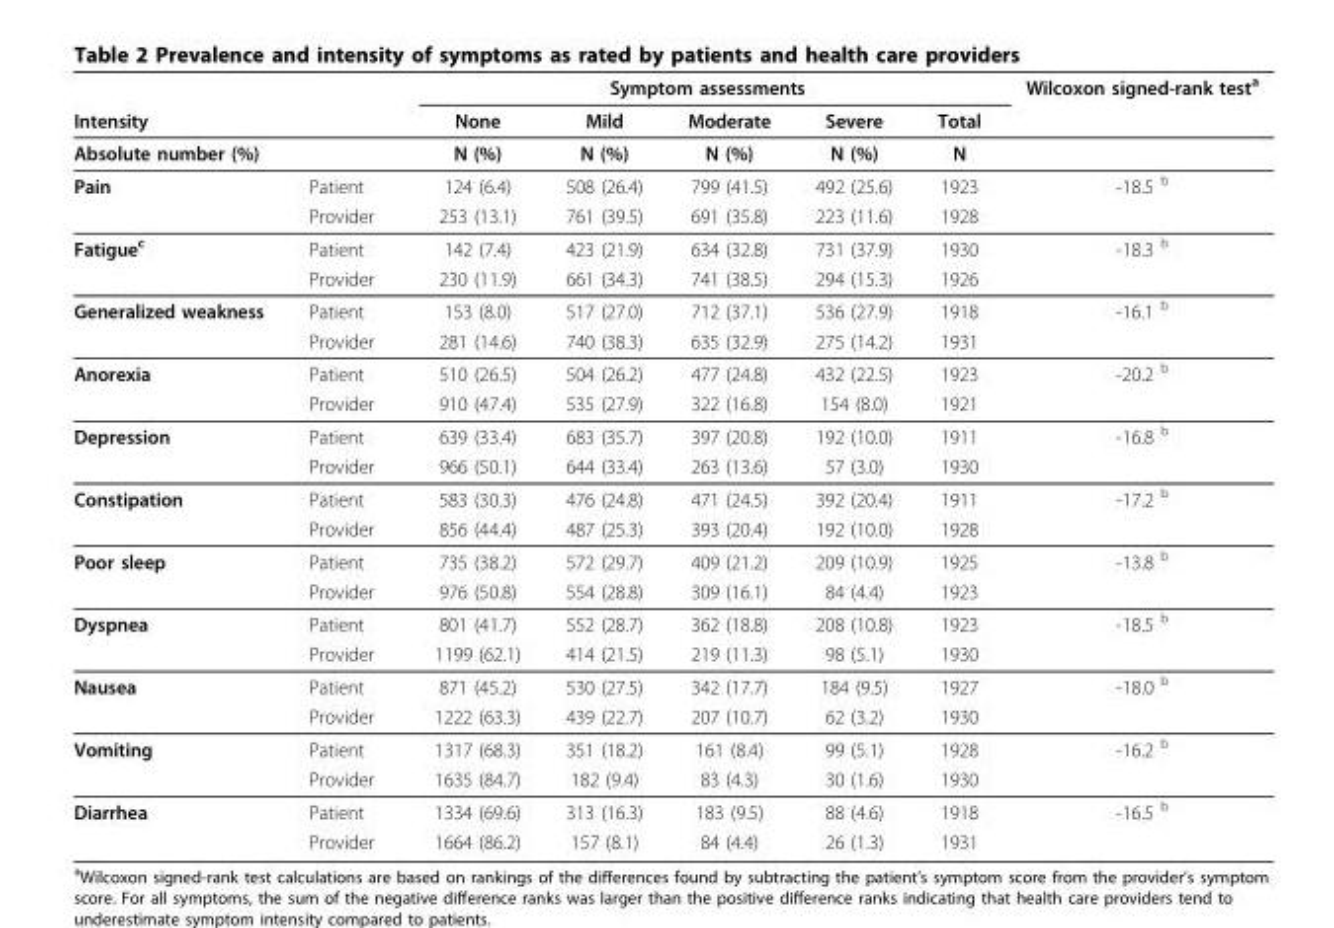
<table><thead><tr><td></td><td></td><td colspan="5">Symptom assessments</td><td rowspan="2">Wilcoxon signed-rank test<sup>a</sup></td></tr><tr><td colspan="2">Intensity</td><td>None</td><td>Mild</td><td>Moderate</td><td>Severe</td><td>Total</td></tr></thead><tbody><tr><td colspan="2">Absolute number (%)</td><td>N (%)</td><td>N (%)</td><td>N (%)</td><td>N (%)</td><td>N</td><td></td></tr><tr><td rowspan="2">Pain</td><td>Patient</td><td>124 (6.4)</td><td>508 (26.4)</td><td>799 (41.5)</td><td>492 (25.6)</td><td>1923</td><td>-18.5 <sup>b</sup></td></tr><tr><td>Provider</td><td>253 (13.1)</td><td>761 (39.5)</td><td>691 (35.8)</td><td>223 (11.6)</td><td>1928</td><td></td></tr><tr><td rowspan="2">Fatigue<sup>c</sup></td><td>Patient</td><td>142 (7.4)</td><td>423 (21.9)</td><td>634 (32.8)</td><td>731 (37.9)</td><td>1930</td><td>-18.3 <sup>b</sup></td></tr><tr><td>Provider</td><td>230 (11.9)</td><td>661 (34.3)</td><td>741 (38.5)</td><td>294 (15.3)</td><td>1926</td><td></td></tr><tr><td rowspan="2">Generalized weakness</td><td>Patient</td><td>153 (8.0)</td><td>517 (27.0)</td><td>712 (37.1)</td><td>536 (27.9)</td><td>1918</td><td>-16.1 <sup>b</sup></td></tr><tr><td>Provider</td><td>281 (14.6)</td><td>740 (38.3)</td><td>635 (32.9)</td><td>275 (14.2)</td><td>1931</td><td></td></tr><tr><td rowspan="2">Anorexia</td><td>Patient</td><td>510 (26.5)</td><td>504 (26.2)</td><td>477 (24.8)</td><td>432 (22.5)</td><td>1923</td><td>-20.2 <sup>b</sup></td></tr><tr><td>Provider</td><td>910 (47.4)</td><td>535 (27.9)</td><td>322 (16.8)</td><td>154 (8.0)</td><td>1921</td><td></td></tr><tr><td rowspan="2">Depression</td><td>Patient</td><td>639 (33.4)</td><td>683 (35.7)</td><td>397 (20.8)</td><td>192 (10.0)</td><td>1911</td><td>-16.8 <sup>b</sup></td></tr><tr><td>Provider</td><td>966 (50.1)</td><td>644 (33.4)</td><td>263 (13.6)</td><td>57 (3.0)</td><td>1930</td><td></td></tr><tr><td rowspan="2">Constipation</td><td>Patient</td><td>583 (30.3)</td><td>476 (24.8)</td><td>471 (24.5)</td><td>392 (20.4)</td><td>1911</td><td>-17.2 <sup>b</sup></td></tr><tr><td>Provider</td><td>856 (44.4)</td><td>487 (25.3)</td><td>393 (20.4)</td><td>192 (10.0)</td><td>1928</td><td></td></tr><tr><td rowspan="2">Poor sleep</td><td>Patient</td><td>735 (38.2)</td><td>572 (29.7)</td><td>409 (21.2)</td><td>209 (10.9)</td><td>1925</td><td>-13.8 <sup>b</sup></td></tr><tr><td>Provider</td><td>976 (50.8)</td><td>554 (28.8)</td><td>309 (16.1)</td><td>84 (4.4)</td><td>1923</td><td></td></tr><tr><td rowspan="2">Dyspnea</td><td>Patient</td><td>801 (41.7)</td><td>552 (28.7)</td><td>362 (18.8)</td><td>208 (10.8)</td><td>1923</td><td>-18.5 <sup>b</sup></td></tr><tr><td>Provider</td><td>1199 (62.1)</td><td>414 (21.5)</td><td>219 (11.3)</td><td>98 (5.1)</td><td>1930</td><td></td></tr><tr><td rowspan="2">Nausea</td><td>Patient</td><td>871 (45.2)</td><td>530 (27.5)</td><td>342 (17.7)</td><td>184 (9.5)</td><td>1927</td><td>-18.0 <sup>b</sup></td></tr><tr><td>Provider</td><td>1222 (63.3)</td><td>439 (22.7)</td><td>207 (10.7)</td><td>62 (3.2)</td><td>1930</td><td></td></tr><tr><td rowspan="2">Vomiting</td><td>Patient</td><td>1317 (68.3)</td><td>351 (18.2)</td><td>161 (8.4)</td><td>99 (5.1)</td><td>1928</td><td>-16.2 <sup>b</sup></td></tr><tr><td>Provider</td><td>1635 (84.7)</td><td>182 (9.4)</td><td>83 (4.3)</td><td>30 (1.6)</td><td>1930</td><td></td></tr><tr><td rowspan="2">Diarrhea</td><td>Patient</td><td>1334 (69.6)</td><td>313 (16.3)</td><td>183 (9.5)</td><td>88 (4.6)</td><td>1918</td><td>-16.5 <sup>b</sup></td></tr><tr><td>Provider</td><td>1664 (86.2)</td><td>157 (8.1)</td><td>84 (4.4)</td><td>26 (1.3)</td><td>1931</td><td></td></tr></tbody></table>